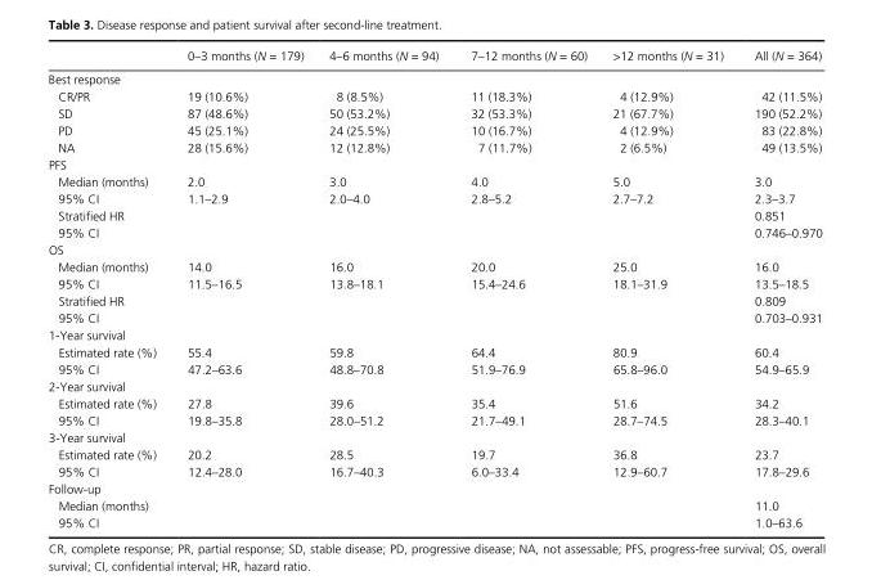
<table><thead><tr><td></td><td>0–3 months (N = 179)</td><td>4–6 months (N = 94)</td><td>7–12 months (N = 60)</td><td>&gt;12 months (N = 31)</td><td>All (N = 364)</td></tr></thead><tbody><tr><td colspan="6">Best response</td></tr><tr><td>CR/PR</td><td>19 (10.6%)</td><td>8 (8.5%)</td><td>11 (18.3%)</td><td>4 (12.9%)</td><td>42 (11.5%)</td></tr><tr><td>SD</td><td>87 (48.6%)</td><td>50 (53.2%)</td><td>32 (53.3%)</td><td>21 (67.7%)</td><td>190 (52.2%)</td></tr><tr><td>PD</td><td>45 (25.1%)</td><td>24 (25.5%)</td><td>10 (16.7%)</td><td>4 (12.9%)</td><td>83 (22.8%)</td></tr><tr><td>NA</td><td>28 (15.6%)</td><td>12 (12.8%)</td><td>7 (11.7%)</td><td>2 (6.5%)</td><td>49 (13.5%)</td></tr><tr><td colspan="6">PFS</td></tr><tr><td>Median (months)</td><td>2.0</td><td>3.0</td><td>4.0</td><td>5.0</td><td>3.0</td></tr><tr><td>95% CI</td><td>1.1–2.9</td><td>2.0–4.0</td><td>2.8–5.2</td><td>2.7–7.2</td><td>2.3–3.7</td></tr><tr><td>Stratified HR</td><td></td><td></td><td></td><td></td><td>0.851</td></tr><tr><td>95% CI</td><td></td><td></td><td></td><td></td><td>0.746–0.970</td></tr><tr><td colspan="6">OS</td></tr><tr><td>Median (months)</td><td>14.0</td><td>16.0</td><td>20.0</td><td>25.0</td><td>16.0</td></tr><tr><td>95% CI</td><td>11.5–16.5</td><td>13.8–18.1</td><td>15.4–24.6</td><td>18.1–31.9</td><td>13.5–18.5</td></tr><tr><td>Stratified HR</td><td></td><td></td><td></td><td></td><td>0.809</td></tr><tr><td>95% CI</td><td></td><td></td><td></td><td></td><td>0.703–0.931</td></tr><tr><td colspan="6">1- Year survival</td></tr><tr><td>Estimated rate (%)</td><td>55.4</td><td>59.8</td><td>64.4</td><td>80.9</td><td>60.4</td></tr><tr><td>95% CI</td><td>47.2–63.6</td><td>48.8–70.8</td><td>51.9–76.9</td><td>65.8–96.0</td><td>54.9–65.9</td></tr><tr><td colspan="6">2- Year survival</td></tr><tr><td>Estimated rate (%)</td><td>27.8</td><td>39.6</td><td>35.4</td><td>51.6</td><td>34.2</td></tr><tr><td>95% CI</td><td>19.8–35.8</td><td>28.0–51.2</td><td>21.7–49.1</td><td>28.7–74.5</td><td>28.3–40.1</td></tr><tr><td colspan="6">3- Year survival</td></tr><tr><td>Estimated rate (%)</td><td>20.2</td><td>28.5</td><td>19.7</td><td>36.8</td><td>23.7</td></tr><tr><td>95% CI</td><td>12.4–28.0</td><td>16.7–40.3</td><td>6.0–33.4</td><td>12.9–60.7</td><td>17.8–29.6</td></tr><tr><td colspan="6">Follow- up</td></tr><tr><td>Median (months)</td><td></td><td></td><td></td><td></td><td>11.0</td></tr><tr><td>95% CI</td><td></td><td></td><td></td><td></td><td>1.0–63.6</td></tr></tbody></table>